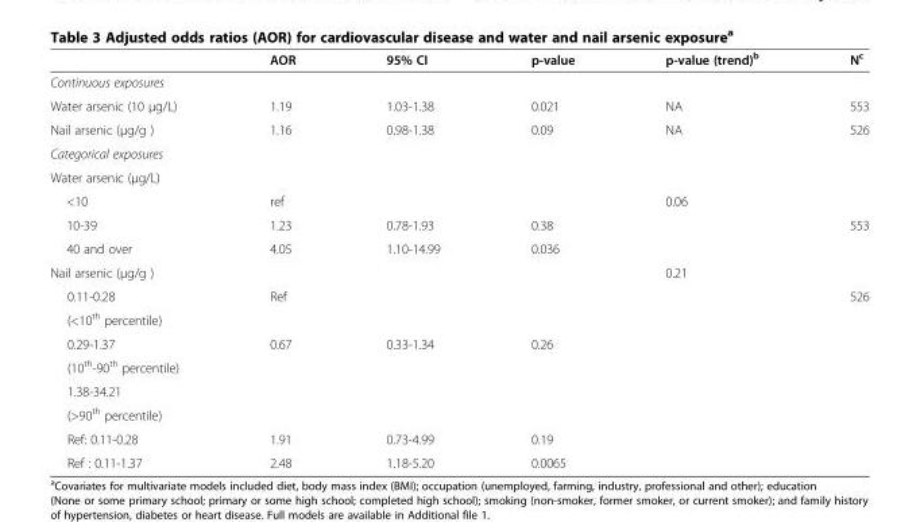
<table><thead><tr><td></td><td>AOR</td><td>95% CI</td><td>p-value</td><td>p-value (trend)<sup>b</sup></td><td>N<sup>c</sup></td></tr></thead><tbody><tr><td colspan="6">Continuous exposures</td></tr><tr><td>Water arsenic (10 μg/L)</td><td>1.19</td><td>1.03-1.38</td><td>0.021</td><td>NA</td><td>553</td></tr><tr><td>Nail arsenic (μg/g )</td><td>1.16</td><td>0.98-1.38</td><td>0.09</td><td>NA</td><td>526</td></tr><tr><td colspan="6">Categorical exposures</td></tr><tr><td colspan="6">Water arsenic (μg/L)</td></tr><tr><td>&lt;10</td><td>ref</td><td></td><td></td><td>0.06</td><td></td></tr><tr><td>10-39</td><td>1.23</td><td>0.78-1.93</td><td>0.38</td><td></td><td>553</td></tr><tr><td>40 and over</td><td>4.05</td><td>1.10-14.99</td><td>0.036</td><td></td><td></td></tr><tr><td>Nail arsenic (μg/g )</td><td></td><td></td><td></td><td>0.21</td><td></td></tr><tr><td>0.11-0.28</td><td rowspan="2">Ref</td><td rowspan="2"></td><td rowspan="2"></td><td rowspan="2"></td><td rowspan="2">526</td></tr><tr><td>(&lt;10<sup>th</sup> percentile)</td></tr><tr><td>0.29-1.37</td><td rowspan="2">0.67</td><td rowspan="2">0.33-1.34</td><td rowspan="2">0.26</td><td rowspan="2"></td><td rowspan="2"></td></tr><tr><td>(10<sup>th</sup>-90<sup>th</sup> percentile)</td></tr><tr><td colspan="6">1.38-34.21</td></tr><tr><td colspan="6">(&gt;90<sup>th</sup> percentile)</td></tr><tr><td>Ref: 0.11-0.28</td><td>1.91</td><td>0.73-4.99</td><td>0.19</td><td></td><td></td></tr><tr><td>Ref : 0.11-1.37</td><td>2.48</td><td>1.18-5.20</td><td>0.0065</td><td></td><td></td></tr></tbody></table>